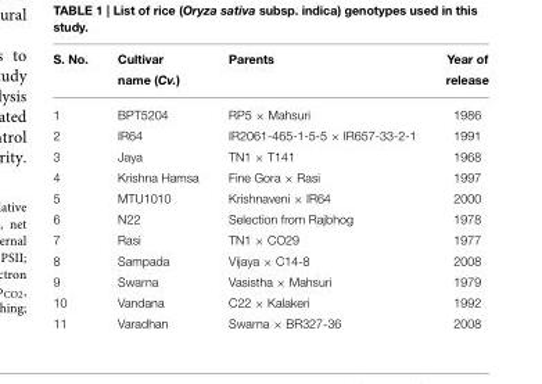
<table><thead><tr><td>S. No.</td><td>Cultivar name (Cv.)</td><td>Parents</td><td>Year of release</td></tr></thead><tbody><tr><td>1</td><td>BPT5204</td><td>RP5 × Mahsuri</td><td>1986</td></tr><tr><td>2</td><td>IR64</td><td>IR2061-465-1-5-5 × IR657-33-2-1</td><td>1991</td></tr><tr><td>3</td><td>Jaya</td><td>TN1 × T141</td><td>1968</td></tr><tr><td>4</td><td>Krishna Hamsa</td><td>Fine Gora × Rasi</td><td>1997</td></tr><tr><td>5</td><td>MTU1010</td><td>Krishnaveni × IR64</td><td>2000</td></tr><tr><td>6</td><td>N22</td><td>Selection from Rajbhog</td><td>1978</td></tr><tr><td>7</td><td>Rasi</td><td>TN1 × CO29</td><td>1977</td></tr><tr><td>8</td><td>Sampada</td><td>Vijaya × C14-8</td><td>2008</td></tr><tr><td>9</td><td>Swarna</td><td>Vasistha × Mahsuri</td><td>1979</td></tr><tr><td>10</td><td>Vandana</td><td>C22 × Kalakeri</td><td>1992</td></tr><tr><td>11</td><td>Varadhan</td><td>Swarna × BR327-36</td><td>2008</td></tr></tbody></table>